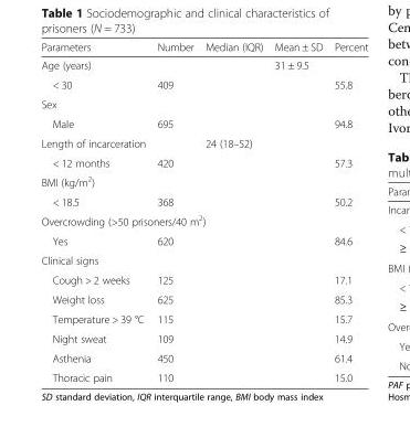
<table><thead><tr><td>Parameters</td><td>Number</td><td>Median (IQR)</td><td>Mean ± SD</td><td>Percent</td></tr></thead><tbody><tr><td>Age (years)</td><td></td><td></td><td>31 ± 9.5</td><td></td></tr><tr><td>&lt; 30</td><td>409</td><td></td><td></td><td>55.8</td></tr><tr><td colspan="5">Sex</td></tr><tr><td>Male</td><td>695</td><td></td><td></td><td>94.8</td></tr><tr><td>Length of incarceration</td><td></td><td>24 (18–52)</td><td></td><td></td></tr><tr><td>&lt; 12 months</td><td>420</td><td></td><td></td><td>57.3</td></tr><tr><td colspan="5">BMI (kg/m<sup>2</sup>)</td></tr><tr><td>&lt; 18.5</td><td>368</td><td></td><td></td><td>50.2</td></tr><tr><td colspan="5">Overcrowding (&gt;50 prisoners/40 m<sup>2</sup>)</td></tr><tr><td>Yes</td><td>620</td><td></td><td></td><td>84.6</td></tr><tr><td colspan="5">Clinical signs</td></tr><tr><td>Cough &gt; 2 weeks</td><td>125</td><td></td><td></td><td>17.1</td></tr><tr><td>Weight loss</td><td>625</td><td></td><td></td><td>85.3</td></tr><tr><td>Temperature &gt; 39 °C</td><td>115</td><td></td><td></td><td>15.7</td></tr><tr><td>Night sweat</td><td>109</td><td></td><td></td><td>14.9</td></tr><tr><td>Asthenia</td><td>450</td><td></td><td></td><td>61.4</td></tr><tr><td>Thoracic pain</td><td>110</td><td></td><td></td><td>15.0</td></tr></tbody></table>